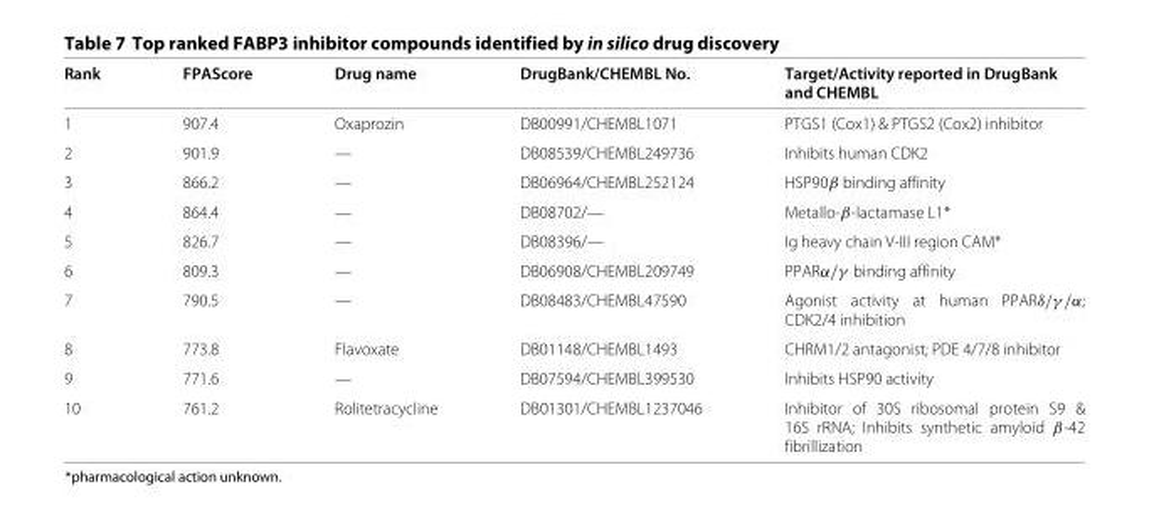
<table><thead><tr><td>Rank</td><td>FPAScore</td><td>Drug name</td><td>DrugBank/CHEMBL No.</td><td>Target/Activity reported in DrugBank and CHEMBL</td></tr></thead><tbody><tr><td>1</td><td>907.4</td><td>Oxaprozin</td><td>DB00991/CHEMBL1071</td><td>PTGS1 (Cox1) &amp; PTGS2 (Cox2) inhibitor</td></tr><tr><td>2</td><td>901.9</td><td>—</td><td>DB08539/CHEMBL249736</td><td>Inhibits human CDK2</td></tr><tr><td>3</td><td>866.2</td><td>—</td><td>DB06964/CHEMBL252124</td><td>HSP90β binding affinity</td></tr><tr><td>4</td><td>864.4</td><td>—</td><td>DB08702/—</td><td>Metallo-β-lactamase L1*</td></tr><tr><td>5</td><td>826.7</td><td>—</td><td>DB08396/—</td><td>Ig heavy chain V-III region CAM*</td></tr><tr><td>6</td><td>809.3</td><td>—</td><td>DB06908/CHEMBL209749</td><td>PPARα/γ binding affinity</td></tr><tr><td>7</td><td>790.5</td><td>—</td><td>DB08483/CHEMBL47590</td><td>Agonist activity at human PPARδ/γ/α; CDK2/4 inhibition</td></tr><tr><td>8</td><td>773.8</td><td>Flavoxate</td><td>DB01148/CHEMBL1493</td><td>CHRM1/2 antagonist; PDE 4/7/8 inhibitor</td></tr><tr><td>9</td><td>771.6</td><td>—</td><td>DB07594/CHEMBL399530</td><td>Inhibits HSP90 activity</td></tr><tr><td>10</td><td>761.2</td><td>Rolitetracycline</td><td>DB01301/CHEMBL1237046</td><td>Inhibitor of 30S ribosomal protein S9 &amp; 16S rRNA; Inhibits synthetic amyloid β-42 fibrillization</td></tr></tbody></table>